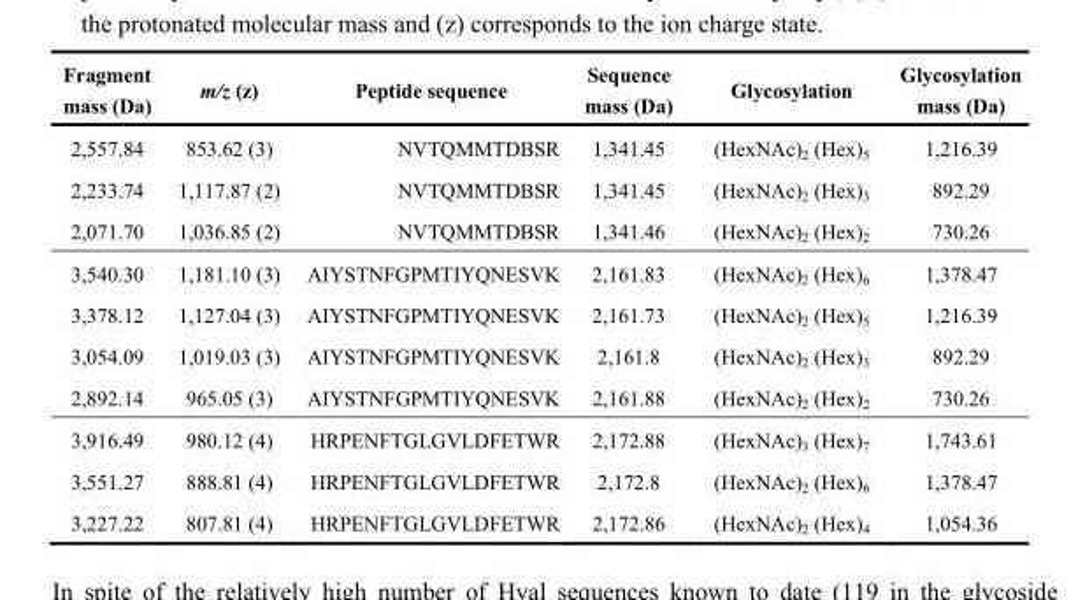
<table><thead><tr><td>Fragment mass (Da)</td><td>m/z (z)</td><td>Peptide sequence</td><td>Sequence mass (Da)</td><td>Glycosylation</td><td>Glycosylation mass (Da)</td></tr></thead><tbody><tr><td>2,557.84</td><td>853.62 (3)</td><td>NVTQMMTDBSR</td><td>1,341.45</td><td>(HexNAc)<sub>2</sub> (Hex)<sub>5</sub></td><td>1,216.39</td></tr><tr><td>2,233.74</td><td>1,117.87 (2)</td><td>NVTQMMTDBSR</td><td>1,341.45</td><td>(HexNAc)<sub>2</sub> (Hex)<sub>3</sub></td><td>892.29</td></tr><tr><td>2,071.70</td><td>1,036.85 (2)</td><td>NVTQMMTDBSR</td><td>1,341.46</td><td>(HexNAc)<sub>2</sub> (Hex)<sub>2</sub></td><td>730.26</td></tr><tr><td>3,540.30</td><td>1,181.10 (3)</td><td>AIYSTNFGPMTIYQNESVK</td><td>2,161.83</td><td>(HexNAc)<sub>2</sub> (Hex)<sub>6</sub></td><td>1,378.47</td></tr><tr><td>3,378.12</td><td>1,127.04 (3)</td><td>AIYSTNFGPMTIYQNESVK</td><td>2,161.73</td><td>(HexNAc)<sub>2</sub> (Hex)<sub>5</sub></td><td>1,216.39</td></tr><tr><td>3,054.09</td><td>1,019.03 (3)</td><td>AIYSTNFGPMTIYQNESVK</td><td>2,161.8</td><td>(HexNAc)<sub>2</sub> (Hex)<sub>3</sub></td><td>892.29</td></tr><tr><td>2,892.14</td><td>965.05 (3)</td><td>AIYSTNFGPMTIYQNESVK</td><td>2,161.88</td><td>(HexNAc)<sub>2</sub> (Hex)<sub>2</sub></td><td>730.26</td></tr><tr><td>3,916.49</td><td>980.12 (4)</td><td>HRPENFTGLGVLDFETWR</td><td>2,172.88</td><td>(HexNAc)<sub>3</sub> (Hex)<sub>7</sub></td><td>1,743.61</td></tr><tr><td>3,551.27</td><td>888.81 (4)</td><td>HRPENFTGLGVLDFETWR</td><td>2,172.8</td><td>(HexNAc)<sub>2</sub> (Hex)<sub>6</sub></td><td>1,378.47</td></tr><tr><td>3,227.22</td><td>807.81 (4)</td><td>HRPENFTGLGVLDFETWR</td><td>2,172.86</td><td>(HexNAc)<sub>2</sub> (Hex)<sub>4</sub></td><td>1,054.36</td></tr></tbody></table>